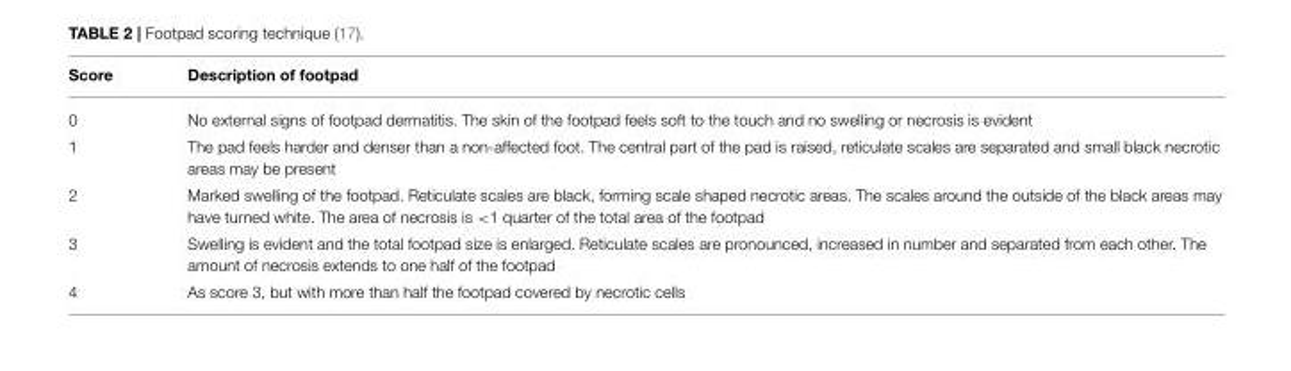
<table><thead><tr><td>Score</td><td>Description of footpad</td></tr></thead><tbody><tr><td>0</td><td>No external signs of footpad dermatitis. The skin of the footpad feels soft to the touch and no swelling or necrosis is evident</td></tr><tr><td>1</td><td>The pad feels harder and denser than a non-affected foot. The central part of the pad is raised, reticulate scales are separated and small black necrotic areas may be present</td></tr><tr><td>2</td><td>Marked swelling of the footpad. Reticulate scales are black, forming scale shaped necrotic areas. The scales around the outside of the black areas may have turned white. The area of necrosis is &lt;1 quarter of the total area of the footpad</td></tr><tr><td>3</td><td>Swelling is evident and the total footpad size is enlarged. Reticulate scales are pronounced, increased in number and separated from each other. The amount of necrosis extends to one half of the footpad</td></tr><tr><td>4</td><td>As score 3, but with more than half the footpad covered by necrotic cells</td></tr></tbody></table>